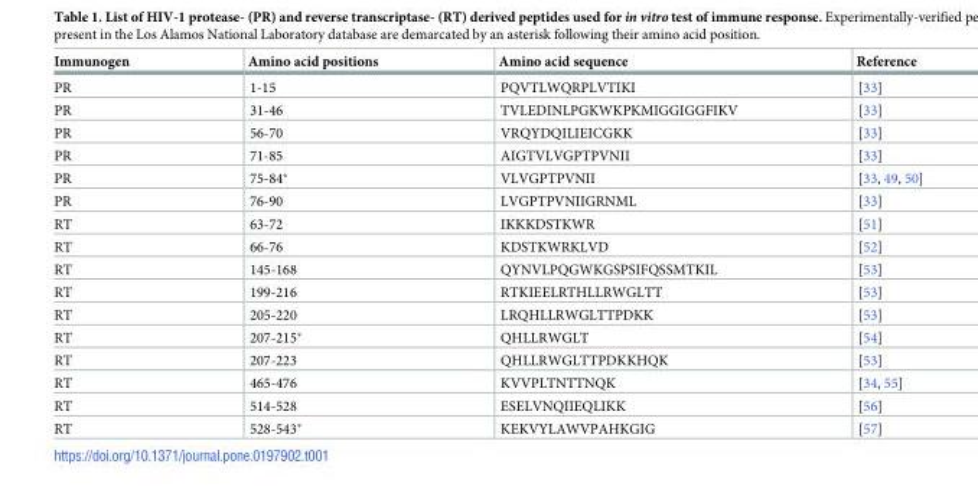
<table><thead><tr><td>Immunogen</td><td>Amino acid positions</td><td>Amino acid sequence</td><td>Reference</td></tr></thead><tbody><tr><td>PR</td><td>1-15</td><td>PQVTLWQRPLVTIKI</td><td>[33]</td></tr><tr><td>PR</td><td>31-46</td><td>TVLEDINLPGKWKPKMIGGIGGFIKV</td><td>[33]</td></tr><tr><td>PR</td><td>56-70</td><td>VRQYDQILIEICGKK</td><td>[33]</td></tr><tr><td>PR</td><td>71-85</td><td>AIGTVLVGPTPVNII</td><td>[33]</td></tr><tr><td>PR</td><td>75-84*</td><td>VLVGPTPVNII</td><td>[33, 49, 50]</td></tr><tr><td>PR</td><td>76-90</td><td>LVGPTPVNIIGRNML</td><td>[33]</td></tr><tr><td>RT</td><td>63-72</td><td>IKKKDSTKWR</td><td>[51]</td></tr><tr><td>RT</td><td>66-76</td><td>KDSTKWRKLVD</td><td>[52]</td></tr><tr><td>RT</td><td>145-168</td><td>QYNVLPQGWKGSPSIFQSSMTKIL</td><td>[53]</td></tr><tr><td>RT</td><td>199-216</td><td>RTKIEELRTHLLRWGLTT</td><td>[53]</td></tr><tr><td>RT</td><td>205-220</td><td>LRQHLLRWGLTTPDKK</td><td>[53]</td></tr><tr><td>RT</td><td>207-215*</td><td>QHLLRWGLT</td><td>[54]</td></tr><tr><td>RT</td><td>207-223</td><td>QHLLRWGLTTPDKKHQK</td><td>[53]</td></tr><tr><td>RT</td><td>465-476</td><td>KVVPLTNTTNQK</td><td>[34, 55]</td></tr><tr><td>RT</td><td>514-528</td><td>ESELVNQIIEQLIKK</td><td>[56]</td></tr><tr><td>RT</td><td>528-543*</td><td>KEKVYLAWVPAHKGIG</td><td>[57]</td></tr></tbody></table>